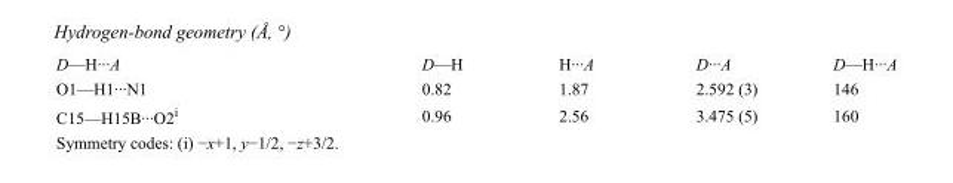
<table><tbody><tr><td>D—H···A</td><td>D—H</td><td>H···A</td><td>D···A</td><td>D—H···A</td></tr><tr><td>O1—H1···N1</td><td>0.82</td><td>1.87</td><td>2.592 (3)</td><td>146</td></tr><tr><td>C15—H15B···O2<sup>i</sup></td><td>0.96</td><td>2.56</td><td>3.475 (5)</td><td>160</td></tr></tbody></table>